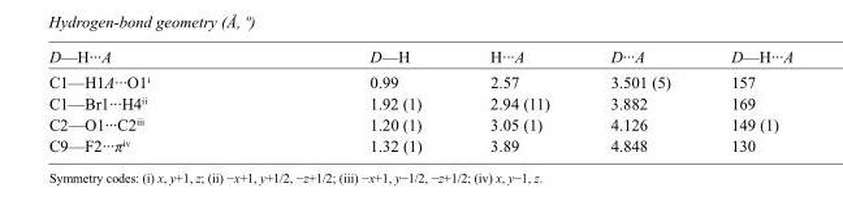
<table><tbody><tr><td>D—H···A</td><td>D—H</td><td>H···A</td><td>D···A</td><td>D—H···A</td></tr><tr><td>C1—H1A···O1<sup>i</sup></td><td>0.99</td><td>2.57</td><td>3.501 (5)</td><td>157</td></tr><tr><td>C1—Br1···H4<sup>ii</sup></td><td>1.92 (1)</td><td>2.94 (11)</td><td>3.882</td><td>169</td></tr><tr><td>C2—O1···C2<sup>iii</sup></td><td>1.20 (1)</td><td>3.05 (1)</td><td>4.126</td><td>149 (1)</td></tr><tr><td>C9—F2···π<sup>iv</sup></td><td>1.32 (1)</td><td>3.89</td><td>4.848</td><td>130</td></tr></tbody></table>